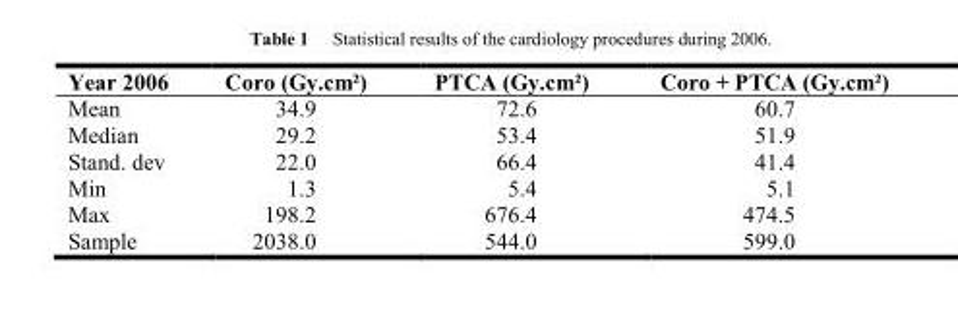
<table><thead><tr><td>Year 2006</td><td>Coro (Gy.cm²)</td><td>PTCA (Gy.cm²)</td><td>Coro + PTCA (Gy.cm²)</td></tr></thead><tbody><tr><td>Mean</td><td>34.9</td><td>72.6</td><td>60.7</td></tr><tr><td>Median</td><td>29.2</td><td>53.4</td><td>51.9</td></tr><tr><td>Stand. dev</td><td>22.0</td><td>66.4</td><td>41.4</td></tr><tr><td>Min</td><td>1.3</td><td>5.4</td><td>5.1</td></tr><tr><td>Max</td><td>198.2</td><td>676.4</td><td>474.5</td></tr><tr><td>Sample</td><td>2038.0</td><td>544.0</td><td>599.0</td></tr></tbody></table>